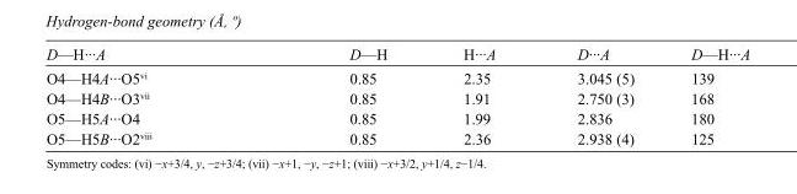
<table><tbody><tr><td>D—H···A</td><td>D—H</td><td>H···A</td><td>D···A</td><td>D—H···A</td></tr><tr><td>O4—H4A···O5<sup>vi</sup></td><td>0.85</td><td>2.35</td><td>3.045 (5)</td><td>139</td></tr><tr><td>O4—H4B···O3<sup>vii</sup></td><td>0.85</td><td>1.91</td><td>2.750 (3)</td><td>168</td></tr><tr><td>O5—H5A···O4</td><td>0.85</td><td>1.99</td><td>2.836</td><td>180</td></tr><tr><td>O5—H5B···O2<sup>viii</sup></td><td>0.85</td><td>2.36</td><td>2.938 (4)</td><td>125</td></tr></tbody></table>